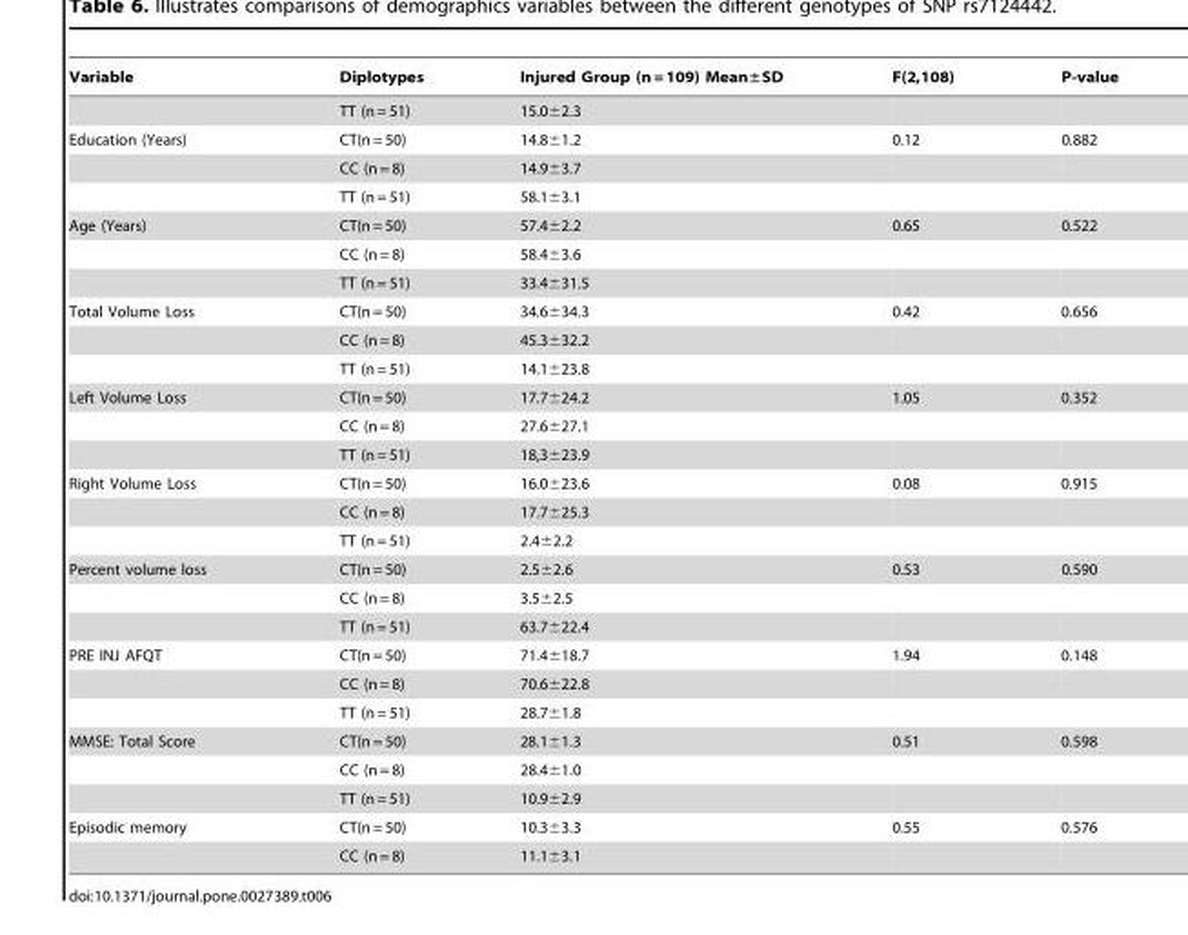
<table><thead><tr><td>Variable</td><td>Diplotypes</td><td>Injured Group (n = 109) Mean±SD</td><td>F(2,108)</td><td>P-value</td></tr></thead><tbody><tr><td></td><td>TT (n = 51)</td><td>15.0±2.3</td><td></td><td></td></tr><tr><td rowspan="3">Education (Years)</td><td>CT(n = 50)</td><td>14.8±1.2</td><td>0.12</td><td>0.882</td></tr><tr><td>CC (n = 8)</td><td>14.9±3.7</td><td></td><td></td></tr><tr><td>TT (n = 51)</td><td>58.1±3.1</td><td></td><td></td></tr><tr><td rowspan="3">Age (Years)</td><td>CT(n = 50)</td><td>57.4±2.2</td><td>0.65</td><td>0.522</td></tr><tr><td>CC (n = 8)</td><td>58.4±3.6</td><td></td><td></td></tr><tr><td>TT (n = 51)</td><td>33.4±31.5</td><td></td><td></td></tr><tr><td rowspan="3">Total Volume Loss</td><td>CT(n = 50)</td><td>34.6±34.3</td><td>0.42</td><td>0.656</td></tr><tr><td>CC (n = 8)</td><td>45.3±32.2</td><td></td><td></td></tr><tr><td>TT (n = 51)</td><td>14.1±23.8</td><td></td><td></td></tr><tr><td rowspan="3">Left Volume Loss</td><td>CT(n = 50)</td><td>17.7±24.2</td><td>1.05</td><td>0.352</td></tr><tr><td>CC (n = 8)</td><td>27.6±27.1</td><td></td><td></td></tr><tr><td>TT (n = 51)</td><td>18,3±23.9</td><td></td><td></td></tr><tr><td rowspan="3">Right Volume Loss</td><td>CT(n = 50)</td><td>16.0±23.6</td><td>0.08</td><td>0.915</td></tr><tr><td>CC (n = 8)</td><td>17.7±25.3</td><td></td><td></td></tr><tr><td>TT (n = 51)</td><td>2.4±2.2</td><td></td><td></td></tr><tr><td rowspan="3">Percent volume loss</td><td>CT(n = 50)</td><td>2.5±2.6</td><td>0.53</td><td>0.590</td></tr><tr><td>CC (n = 8)</td><td>3.5±2.5</td><td></td><td></td></tr><tr><td>TT (n = 51)</td><td>63.7±22.4</td><td></td><td></td></tr><tr><td rowspan="3">PRE INJ AFQT</td><td>CT(n = 50)</td><td>71.4±18.7</td><td>1.94</td><td>0.148</td></tr><tr><td>CC (n = 8)</td><td>70.6±22.8</td><td></td><td></td></tr><tr><td>TT (n = 51)</td><td>28.7±1.8</td><td></td><td></td></tr><tr><td rowspan="3">MMSE: Total Score</td><td>CT(n = 50)</td><td>28.1±1.3</td><td>0.51</td><td>0.598</td></tr><tr><td>CC (n = 8)</td><td>28.4±1.0</td><td></td><td></td></tr><tr><td>TT (n = 51)</td><td>10.9±2.9</td><td></td><td></td></tr><tr><td rowspan="2">Episodic memory</td><td>CT(n = 50)</td><td>10.3±3.3</td><td>0.55</td><td>0.576</td></tr><tr><td>CC (n = 8)</td><td>11.1±3.1</td><td></td><td></td></tr></tbody></table>